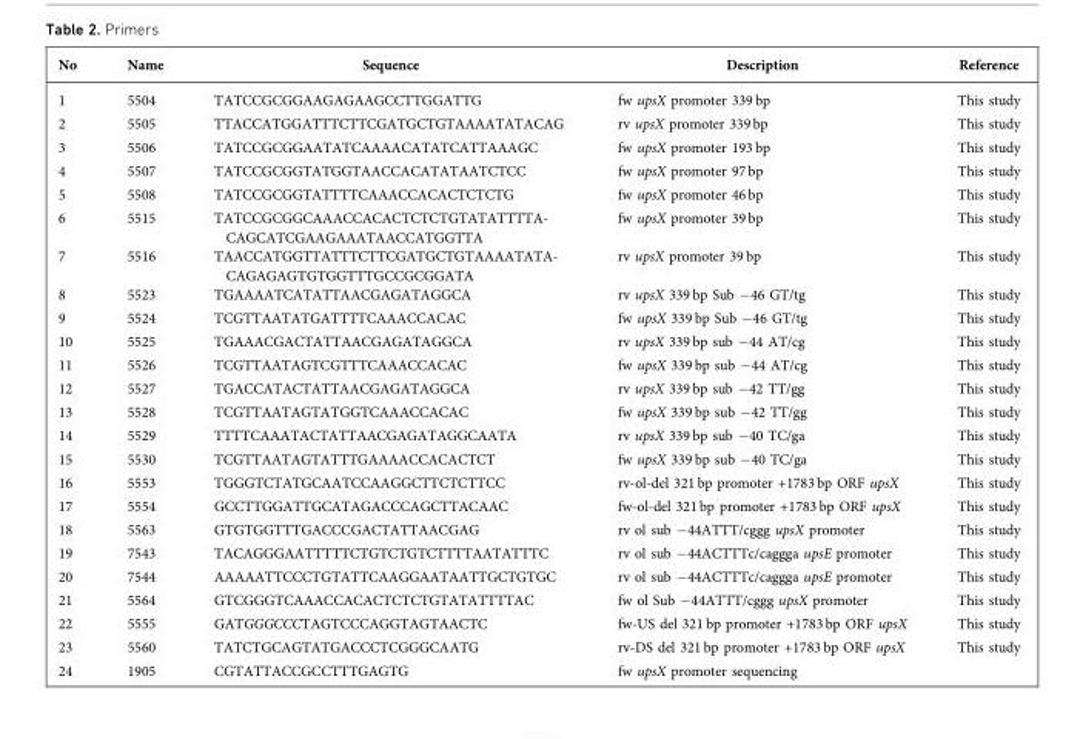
<table><thead><tr><td>No</td><td>Name</td><td>Sequence</td><td>Description</td><td>Reference</td></tr></thead><tbody><tr><td>1</td><td>5504</td><td>TATCCGCGGAAGAGAAGCCTTGGATTG</td><td>fw upsX promoter 339 bp</td><td>This study</td></tr><tr><td>2</td><td>5505</td><td>TTACCATGGATTTCTTCGATGCTGTAAAATATACAG</td><td>rv upsX promoter 339 bp</td><td>This study</td></tr><tr><td>3</td><td>5506</td><td>TATCCGCGGAATATCAAAACATATCATTAAAGC</td><td>fw upsX promoter 193 bp</td><td>This study</td></tr><tr><td>4</td><td>5507</td><td>TATCCGCGGTATGGTAACCACATATAATCTCC</td><td>fw upsX promoter 97 bp</td><td>This study</td></tr><tr><td>5</td><td>5508</td><td>TATCCGCGGTATTTTCAAACCACACTCTCTG</td><td>fw upsX promoter 46 bp</td><td>This study</td></tr><tr><td>6</td><td>5515</td><td>TATCCGCGGCAAACCACACTCTCTGTATATTTTA- CAGCATCGAAGAAATAACCATGGTTA</td><td>fw upsX promoter 39 bp</td><td>This study</td></tr><tr><td>7</td><td>5516</td><td>TAACCATGGTTATTTCTTCGATGCTGTAAAATATA- CAGAGAGTGTGGTTTGCCGCGGATA</td><td>rv upsX promoter 39 bp</td><td>This study</td></tr><tr><td>8</td><td>5523</td><td>TGAAAATCATATTAACGAGATAGGCA</td><td>rv upsX 339 bp Sub −46 GT/tg</td><td>This study</td></tr><tr><td>9</td><td>5524</td><td>TCGTTAATATGATTTTCAAACCACAC</td><td>fw upsX 339 bp Sub −46 GT/tg</td><td>This study</td></tr><tr><td>10</td><td>5525</td><td>TGAAACGACTATTAACGAGATAGGCA</td><td>rv upsX 339 bp sub −44 AT/cg</td><td>This study</td></tr><tr><td>11</td><td>5526</td><td>TCGTTAATAGTCGTTTCAAACCACAC</td><td>fw upsX 339 bp sub −44 AT/cg</td><td>This study</td></tr><tr><td>12</td><td>5527</td><td>TGACCATACTATTAACGAGATAGGCA</td><td>rv upsX 339 bp sub −42 TT/gg</td><td>This study</td></tr><tr><td>13</td><td>5528</td><td>TCGTTAATAGTATGGTCAAACCACAC</td><td>fw upsX 339 bp sub −42 TT/gg</td><td>This study</td></tr><tr><td>14</td><td>5529</td><td>TTTTCAAATACTATTAACGAGATAGGCAATA</td><td>rv upsX 339 bp sub −40 TC/ga</td><td>This study</td></tr><tr><td>15</td><td>5530</td><td>TCGTTAATAGTATTTGAAAACCACACTCT</td><td>fw upsX 339 bp sub −40 TC/ga</td><td>This study</td></tr><tr><td>16</td><td>5553</td><td>TGGGTCTATGCAATCCAAGGCTTCTCTTCC</td><td>rv-ol-del 321 bp promoter +1783 bp ORF upsX</td><td>This study</td></tr><tr><td>17</td><td>5554</td><td>GCCTTGGATTGCATAGACCCAGCTTACAAC</td><td>fw-ol-del 321 bp promoter +1783 bp ORF upsX</td><td>This study</td></tr><tr><td>18</td><td>5563</td><td>GTGTGGTTTGACCCGACTATTAACGAG</td><td>rv ol sub −44ATTT/cggg upsX promoter</td><td>This study</td></tr><tr><td>19</td><td>7543</td><td>TACAGGGAATTTTTCTGTCTGTCTTTTAATATTTC</td><td>rv ol sub −44ACTTTc/caggga upsE promoter</td><td>This study</td></tr><tr><td>20</td><td>7544</td><td>AAAAATTCCCTGTATTCAAGGAATAATTGCTGTGC</td><td>rv ol sub −44ACTTTc/caggga upsE promoter</td><td>This study</td></tr><tr><td>21</td><td>5564</td><td>GTCGGGTCAAACCACACTCTCTGTATATTTTAC</td><td>fw ol Sub −44ATTT/cggg upsX promoter</td><td>This study</td></tr><tr><td>22</td><td>5555</td><td>GATGGGCCCTAGTCCCAGGTAGTAACTC</td><td>fw-US del 321 bp promoter +1783 bp ORF upsX</td><td>This study</td></tr><tr><td>23</td><td>5560</td><td>TATCTGCAGTATGACCCTCGGGCAATG</td><td>rv-DS del 321 bp promoter +1783 bp ORF upsX</td><td>This study</td></tr><tr><td>24</td><td>1905</td><td>CGTATTACCGCCTTTGAGTG</td><td>fw upsX promoter sequencing</td><td></td></tr></tbody></table>